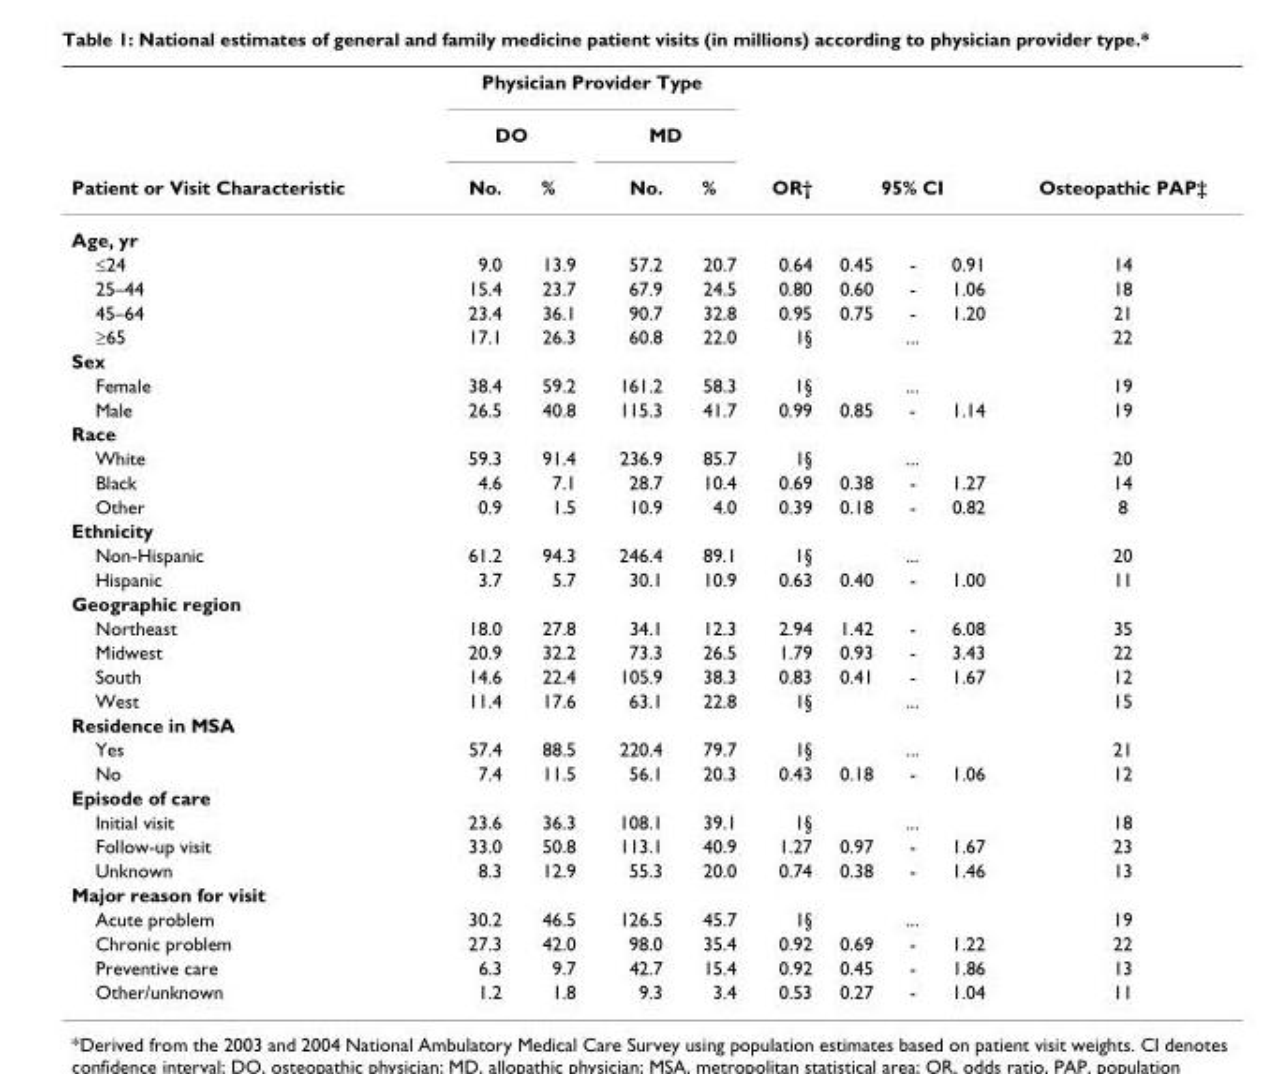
<table><thead><tr><td rowspan="3">Patient or Visit Characteristic</td><td colspan="4">Physician Provider Type</td><td rowspan="3">OR†</td><td rowspan="2"></td><td rowspan="2"></td><td rowspan="2"></td><td rowspan="3">Osteopathic PAP‡</td></tr><tr><td colspan="2">DO</td><td colspan="2">MD</td></tr><tr><td>No.</td><td>%</td><td>No.</td><td>%</td><td colspan="3">95% CI</td></tr></thead><tbody><tr><td colspan="10">Age, yr</td></tr><tr><td>≤24</td><td>9.0</td><td>13.9</td><td>57.2</td><td>20.7</td><td>0.64</td><td>0.45</td><td>-</td><td>0.91</td><td>14</td></tr><tr><td>25–44</td><td>15.4</td><td>23.7</td><td>67.9</td><td>24.5</td><td>0.80</td><td>0.60</td><td>-</td><td>1.06</td><td>18</td></tr><tr><td>45–64</td><td>23.4</td><td>36.1</td><td>90.7</td><td>32.8</td><td>0.95</td><td>0.75</td><td>-</td><td>1.20</td><td>21</td></tr><tr><td>≥65</td><td>17.1</td><td>26.3</td><td>60.8</td><td>22.0</td><td>1§</td><td></td><td>...</td><td></td><td>22</td></tr><tr><td colspan="10">Sex</td></tr><tr><td>Female</td><td>38.4</td><td>59.2</td><td>161.2</td><td>58.3</td><td>1§</td><td></td><td>...</td><td></td><td>19</td></tr><tr><td>Male</td><td>26.5</td><td>40.8</td><td>115.3</td><td>41.7</td><td>0.99</td><td>0.85</td><td>-</td><td>1.14</td><td>19</td></tr><tr><td colspan="10">Race</td></tr><tr><td>White</td><td>59.3</td><td>91.4</td><td>236.9</td><td>85.7</td><td>1§</td><td></td><td>...</td><td></td><td>20</td></tr><tr><td>Black</td><td>4.6</td><td>7.1</td><td>28.7</td><td>10.4</td><td>0.69</td><td>0.38</td><td>-</td><td>1.27</td><td>14</td></tr><tr><td>Other</td><td>0.9</td><td>1.5</td><td>10.9</td><td>4.0</td><td>0.39</td><td>0.18</td><td>-</td><td>0.82</td><td>8</td></tr><tr><td colspan="10">Ethnicity</td></tr><tr><td>Non-Hispanic</td><td>61.2</td><td>94.3</td><td>246.4</td><td>89.1</td><td>1§</td><td></td><td>...</td><td></td><td>20</td></tr><tr><td>Hispanic</td><td>3.7</td><td>5.7</td><td>30.1</td><td>10.9</td><td>0.63</td><td>0.40</td><td>-</td><td>1.00</td><td>11</td></tr><tr><td colspan="10">Geographic region</td></tr><tr><td>Northeast</td><td>18.0</td><td>27.8</td><td>34.1</td><td>12.3</td><td>2.94</td><td>1.42</td><td>-</td><td>6.08</td><td>35</td></tr><tr><td>Midwest</td><td>20.9</td><td>32.2</td><td>73.3</td><td>26.5</td><td>1.79</td><td>0.93</td><td>-</td><td>3.43</td><td>22</td></tr><tr><td>South</td><td>14.6</td><td>22.4</td><td>105.9</td><td>38.3</td><td>0.83</td><td>0.41</td><td>-</td><td>1.67</td><td>12</td></tr><tr><td>West</td><td>11.4</td><td>17.6</td><td>63.1</td><td>22.8</td><td>1§</td><td></td><td>...</td><td></td><td>15</td></tr><tr><td colspan="10">Residence in MSA</td></tr><tr><td>Yes</td><td>57.4</td><td>88.5</td><td>220.4</td><td>79.7</td><td>1§</td><td></td><td>...</td><td></td><td>21</td></tr><tr><td>No</td><td>7.4</td><td>11.5</td><td>56.1</td><td>20.3</td><td>0.43</td><td>0.18</td><td>-</td><td>1.06</td><td>12</td></tr><tr><td colspan="10">Episode of care</td></tr><tr><td>Initial visit</td><td>23.6</td><td>36.3</td><td>108.1</td><td>39.1</td><td>1§</td><td></td><td>...</td><td></td><td>18</td></tr><tr><td>Follow-up visit</td><td>33.0</td><td>50.8</td><td>113.1</td><td>40.9</td><td>1.27</td><td>0.97</td><td>-</td><td>1.67</td><td>23</td></tr><tr><td>Unknown</td><td>8.3</td><td>12.9</td><td>55.3</td><td>20.0</td><td>0.74</td><td>0.38</td><td>-</td><td>1.46</td><td>13</td></tr><tr><td colspan="10">Major reason for visit</td></tr><tr><td>Acute problem</td><td>30.2</td><td>46.5</td><td>126.5</td><td>45.7</td><td>1§</td><td></td><td>...</td><td></td><td>19</td></tr><tr><td>Chronic problem</td><td>27.3</td><td>42.0</td><td>98.0</td><td>35.4</td><td>0.92</td><td>0.69</td><td>-</td><td>1.22</td><td>22</td></tr><tr><td>Preventive care</td><td>6.3</td><td>9.7</td><td>42.7</td><td>15.4</td><td>0.92</td><td>0.45</td><td>-</td><td>1.86</td><td>13</td></tr><tr><td>Other/unknown</td><td>1.2</td><td>1.8</td><td>9.3</td><td>3.4</td><td>0.53</td><td>0.27</td><td>-</td><td>1.04</td><td>11</td></tr></tbody></table>